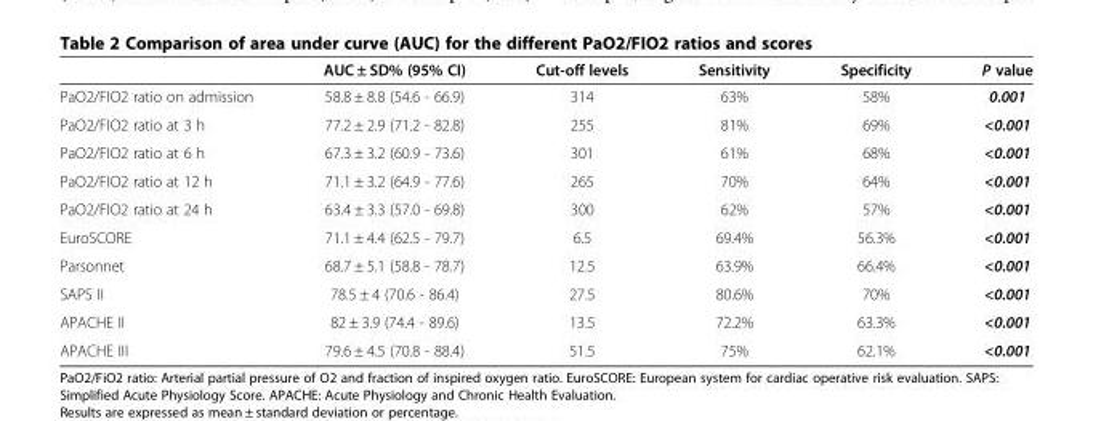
<table><thead><tr><td></td><td>AUC ± SD% (95% CI)</td><td>Cut-off levels</td><td>Sensitivity</td><td>Specificity</td><td>P value</td></tr></thead><tbody><tr><td>PaO2/FIO2 ratio on admission</td><td>58.8 ± 8.8 (54.6 - 66.9)</td><td>314</td><td>63%</td><td>58%</td><td>0.001</td></tr><tr><td>PaO2/FIO2 ratio at 3 h</td><td>77.2 ± 2.9 (71.2 - 82.8)</td><td>255</td><td>81%</td><td>69%</td><td>&lt;0.001</td></tr><tr><td>PaO2/FIO2 ratio at 6 h</td><td>67.3 ± 3.2 (60.9 - 73.6)</td><td>301</td><td>61%</td><td>68%</td><td>&lt;0.001</td></tr><tr><td>PaO2/FIO2 ratio at 12 h</td><td>71.1 ± 3.2 (64.9 - 77.6)</td><td>265</td><td>70%</td><td>64%</td><td>&lt;0.001</td></tr><tr><td>PaO2/FIO2 ratio at 24 h</td><td>63.4 ± 3.3 (57.0 - 69.8)</td><td>300</td><td>62%</td><td>57%</td><td>&lt;0.001</td></tr><tr><td>EuroSCORE</td><td>71.1 ± 4.4 (62.5 - 79.7)</td><td>6.5</td><td>69.4%</td><td>56.3%</td><td>&lt;0.001</td></tr><tr><td>Parsonnet</td><td>68.7 ± 5.1 (58.8 - 78.7)</td><td>12.5</td><td>63.9%</td><td>66.4%</td><td>&lt;0.001</td></tr><tr><td>SAPS II</td><td>78.5 ± 4 (70.6 - 86.4)</td><td>27.5</td><td>80.6%</td><td>70%</td><td>&lt;0.001</td></tr><tr><td>APACHE II</td><td>82 ± 3.9 (74.4 - 89.6)</td><td>13.5</td><td>72.2%</td><td>63.3%</td><td>&lt;0.001</td></tr><tr><td>APACHE III</td><td>79.6 ± 4.5 (70.8 - 88.4)</td><td>51.5</td><td>75%</td><td>62.1%</td><td>&lt;0.001</td></tr></tbody></table>